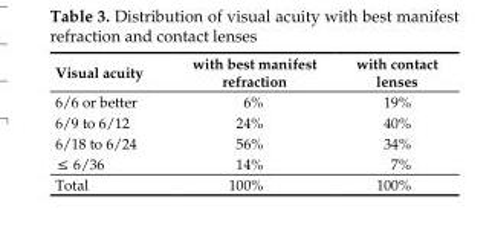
<table><thead><tr><td>Visual acuity</td><td>with best manifest refraction</td><td>with contact lenses</td></tr></thead><tbody><tr><td>6/6 or better</td><td>6%</td><td>19%</td></tr><tr><td>6/9 to 6/12</td><td>24%</td><td>40%</td></tr><tr><td>6/18 to 6/24</td><td>56%</td><td>34%</td></tr><tr><td>≤ 6/36</td><td>14%</td><td>7%</td></tr><tr><td>Total</td><td>100%</td><td>100%</td></tr></tbody></table>